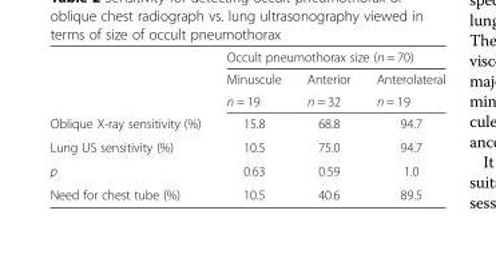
<table><thead><tr><td rowspan="3"></td><td colspan="3">Occult pneumothorax size (n = 70)</td></tr><tr><td rowspan="2">Minuscule n = 19</td><td rowspan="2">Anterior n = 32</td><td rowspan="2">Anterolateral n = 19</td></tr><tr></tr></thead><tbody><tr><td>Oblique X-ray sensitivity (%)</td><td>15.8</td><td>68.8</td><td>94.7</td></tr><tr><td>Lung US sensitivity (%)</td><td>10.5</td><td>75.0</td><td>94.7</td></tr><tr><td>p</td><td>0.63</td><td>0.59</td><td>1.0</td></tr><tr><td>Need for chest tube (%)</td><td>10.5</td><td>40.6</td><td>89.5</td></tr></tbody></table>